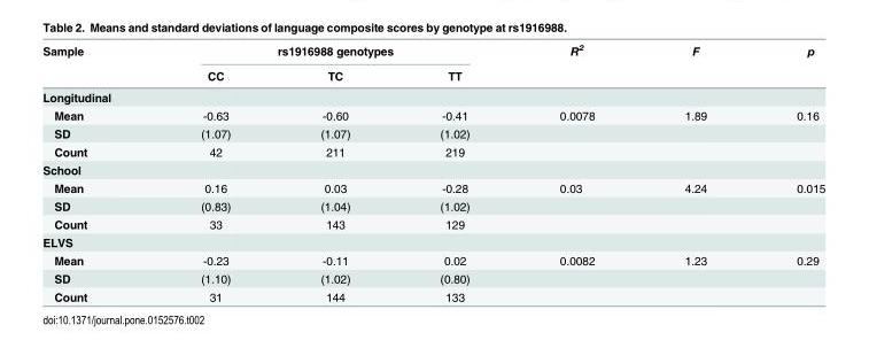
<table><thead><tr><td rowspan="2">Sample</td><td colspan="3">rs1916988 genotypes</td><td rowspan="2">R<sup>2</sup></td><td rowspan="2">F</td><td rowspan="2">p</td></tr><tr><td>CC</td><td>TC</td><td>TT</td></tr></thead><tbody><tr><td colspan="7">Longitudinal</td></tr><tr><td>Mean</td><td>-0.63</td><td>-0.60</td><td>-0.41</td><td>0.0078</td><td>1.89</td><td>0.16</td></tr><tr><td>SD</td><td>(1.07)</td><td>(1.07)</td><td>(1.02)</td><td></td><td></td><td></td></tr><tr><td>Count</td><td>42</td><td>211</td><td>219</td><td></td><td></td><td></td></tr><tr><td colspan="7">School</td></tr><tr><td>Mean</td><td>0.16</td><td>0.03</td><td>-0.28</td><td>0.03</td><td>4.24</td><td>0.015</td></tr><tr><td>SD</td><td>(0.83)</td><td>(1.04)</td><td>(1.02)</td><td></td><td></td><td></td></tr><tr><td>Count</td><td>33</td><td>143</td><td>129</td><td></td><td></td><td></td></tr><tr><td colspan="7">ELVS</td></tr><tr><td>Mean</td><td>-0.23</td><td>-0.11</td><td>0.02</td><td>0.0082</td><td>1.23</td><td>0.29</td></tr><tr><td>SD</td><td>(1.10)</td><td>(1.02)</td><td>(0.80)</td><td></td><td></td><td></td></tr><tr><td>Count</td><td>31</td><td>144</td><td>133</td><td></td><td></td><td></td></tr></tbody></table>